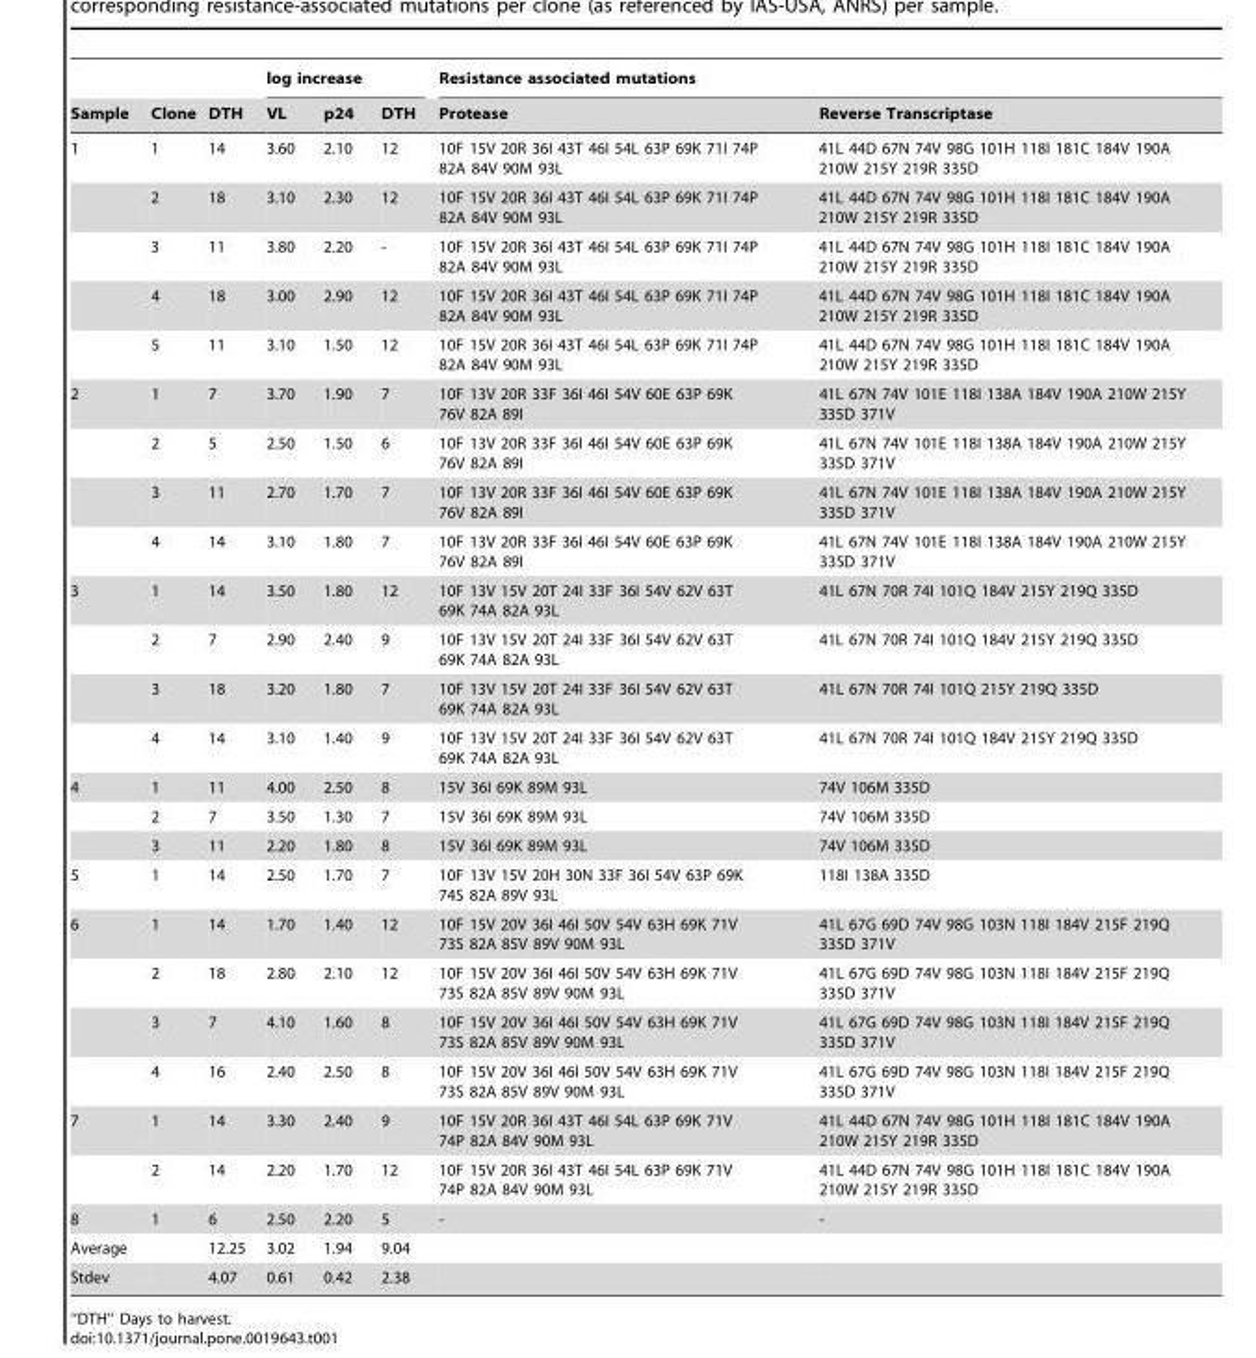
<table><thead><tr><td rowspan="2">Sample</td><td rowspan="2">Clone</td><td rowspan="2">DTH</td><td colspan="3">log increase</td><td colspan="2">Resistance associated mutations</td></tr><tr><td>VL</td><td>p24</td><td>DTH</td><td>Protease</td><td>Reverse Transcriptase</td></tr></thead><tbody><tr><td rowspan="5">1</td><td>1</td><td>14</td><td>3.60</td><td>2.10</td><td>12</td><td>10F 15V 20R 36I 43T 46I 54L 63P 69K 71I 74P 82A 84V 90M 93L</td><td>41L 44D 67N 74V 98G 101H 118I 181C 184V 190A 210W 215Y 219R 335D</td></tr><tr><td>2</td><td>18</td><td>3.10</td><td>2.30</td><td>12</td><td>10F 15V 20R 36I 43T 46I 54L 63P 69K 71I 74P 82A 84V 90M 93L</td><td>41L 44D 67N 74V 98G 101H 118I 181C 184V 190A 210W 215Y 219R 335D</td></tr><tr><td>3</td><td>11</td><td>3.80</td><td>2.20</td><td>-</td><td>10F 15V 20R 36I 43T 46I 54L 63P 69K 71I 74P 82A 84V 90M 93L</td><td>41L 44D 67N 74V 98G 101H 118I 181C 184V 190A 210W 215Y 219R 335D</td></tr><tr><td>4</td><td>18</td><td>3.00</td><td>2.90</td><td>12</td><td>10F 15V 20R 36I 43T 46I 54L 63P 69K 71I 74P 82A 84V 90M 93L</td><td>41L 44D 67N 74V 98G 101H 118I 181C 184V 190A 210W 215Y 219R 335D</td></tr><tr><td>5</td><td>11</td><td>3.10</td><td>1.50</td><td>12</td><td>10F 15V 20R 36I 43T 46I 54L 63P 69K 71I 74P 82A 84V 90M 93L</td><td>41L 44D 67N 74V 98G 101H 118I 181C 184V 190A 210W 215Y 219R 335D</td></tr><tr><td rowspan="4">2</td><td>1</td><td>7</td><td>3.70</td><td>1.90</td><td>7</td><td>10F 13V 20R 33F 36I 46I 54V 60E 63P 69K 76V 82A 89I</td><td>41L 67N 74V 101E 118I 138A 184V 190A 210W 215Y 335D 371V</td></tr><tr><td>2</td><td>5</td><td>2.50</td><td>1.50</td><td>6</td><td>10F 13V 20R 33F 36I 46I 54V 60E 63P 69K 76V 82A 89I</td><td>41L 67N 74V 101E 118I 138A 184V 190A 210W 215Y 335D 371V</td></tr><tr><td>3</td><td>11</td><td>2.70</td><td>1.70</td><td>7</td><td>10F 13V 20R 33F 36I 46I 54V 60E 63P 69K 76V 82A 89I</td><td>41L 67N 74V 101E 118I 138A 184V 190A 210W 215Y 335D 371V</td></tr><tr><td>4</td><td>14</td><td>3.10</td><td>1.80</td><td>7</td><td>10F 13V 20R 33F 36I 46I 54V 60E 63P 69K 76V 82A 89I</td><td>41L 67N 74V 101E 118I 138A 184V 190A 210W 215Y 335D 371V</td></tr><tr><td rowspan="4">3</td><td>1</td><td>14</td><td>3.50</td><td>1.80</td><td>12</td><td>10F 13V 15V 20T 24I 33F 36I 54V 62V 63T 69K 74A 82A 93L</td><td>41L 67N 70R 74I 101Q 184V 215Y 219Q 335D</td></tr><tr><td>2</td><td>7</td><td>2.90</td><td>2.40</td><td>9</td><td>10F 13V 15V 20T 24I 33F 36I 54V 62V 63T 69K 74A 82A 93L</td><td>41L 67N 70R 74I 101Q 184V 215Y 219Q 335D</td></tr><tr><td>3</td><td>18</td><td>3.20</td><td>1.80</td><td>7</td><td>10F 13V 15V 20T 24I 33F 36I 54V 62V 63T 69K 74A 82A 93L</td><td>41L 67N 70R 74I 101Q 215Y 219Q 335D</td></tr><tr><td>4</td><td>14</td><td>3.10</td><td>1.40</td><td>9</td><td>10F 13V 15V 20T 24I 33F 36I 54V 62V 63T 69K 74A 82A 93L</td><td>41L 67N 70R 74I 101Q 184V 215Y 219Q 335D</td></tr><tr><td rowspan="3">4</td><td>1</td><td>11</td><td>4.00</td><td>2.50</td><td>8</td><td>15V 36I 69K 89M 93L</td><td>74V 106M 335D</td></tr><tr><td>2</td><td>7</td><td>3.50</td><td>1.30</td><td>7</td><td>15V 36I 69K 89M 93L</td><td>74V 106M 335D</td></tr><tr><td>3</td><td>11</td><td>2.20</td><td>1.80</td><td>8</td><td>15V 36I 69K 89M 93L</td><td>74V 106M 335D</td></tr><tr><td>5</td><td>1</td><td>14</td><td>2.50</td><td>1.70</td><td>7</td><td>10F 13V 15V 20H 30N 33F 36I 54V 63P 69K 74S 82A 89V 93L</td><td>118I 138A 335D</td></tr><tr><td rowspan="4">6</td><td>1</td><td>14</td><td>1.70</td><td>1.40</td><td>12</td><td>10F 15V 20V 36I 46I 50V 54V 63H 69K 71V 73S 82A 85V 89V 90M 93L</td><td>41L 67G 69D 74V 98G 103N 118I 184V 215F 219Q 335D 371V</td></tr><tr><td>2</td><td>18</td><td>2.80</td><td>2.10</td><td>12</td><td>10F 15V 20V 36I 46I 50V 54V 63H 69K 71V 73S 82A 85V 89V 90M 93L</td><td>41L 67G 69D 74V 98G 103N 118I 184V 215F 219Q 335D 371V</td></tr><tr><td>3</td><td>7</td><td>4.10</td><td>1.60</td><td>8</td><td>10F 15V 20V 36I 46I 50V 54V 63H 69K 71V 73S 82A 85V 89V 90M 93L</td><td>41L 67G 69D 74V 98G 103N 118I 184V 215F 219Q 335D 371V</td></tr><tr><td>4</td><td>16</td><td>2.40</td><td>2.50</td><td>8</td><td>10F 15V 20V 36I 46I 50V 54V 63H 69K 71V 73S 82A 85V 89V 90M 93L</td><td>41L 67G 69D 74V 98G 103N 118I 184V 215F 219Q 335D 371V</td></tr><tr><td rowspan="2">7</td><td>1</td><td>14</td><td>3.30</td><td>2.40</td><td>9</td><td>10F 15V 20R 36I 43T 46I 54L 63P 69K 71V 74P 82A 84V 90M 93L</td><td>41L 44D 67N 74V 98G 101H 118I 181C 184V 190A 210W 215Y 219R 335D</td></tr><tr><td>2</td><td>14</td><td>2.20</td><td>1.70</td><td>12</td><td>10F 15V 20R 36I 43T 46I 54L 63P 69K 71V 74P 82A 84V 90M 93L</td><td>41L 44D 67N 74V 98G 101H 118I 181C 184V 190A 210W 215Y 219R 335D</td></tr><tr><td>8</td><td>1</td><td>6</td><td>2.50</td><td>2.20</td><td>5</td><td>-</td><td>-</td></tr><tr><td>Average</td><td></td><td>12.25</td><td>3.02</td><td>1.94</td><td>9.04</td><td></td><td></td></tr><tr><td>Stdev</td><td></td><td>4.07</td><td>0.61</td><td>0.42</td><td>2.38</td><td></td><td></td></tr></tbody></table>